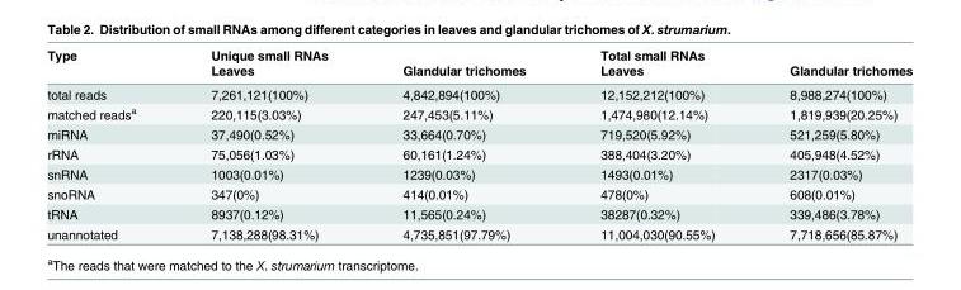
<table><thead><tr><td rowspan="2">Type</td><td rowspan="2">Unique small RNAs Leaves</td><td rowspan="2">Glandular trichomes</td><td rowspan="2">Total small RNAs Leaves</td><td rowspan="2">Glandular trichomes</td></tr><tr></tr></thead><tbody><tr><td>total reads</td><td>7,261,121(100%)</td><td>4,842,894(100%)</td><td>12,152,212(100%)</td><td>8,988,274(100%)</td></tr><tr><td>matched reads<sup>a</sup></td><td>220,115(3.03%)</td><td>247,453(5.11%)</td><td>1,474,980(12.14%)</td><td>1,819,939(20.25%)</td></tr><tr><td>miRNA</td><td>37,490(0.52%)</td><td>33,664(0.70%)</td><td>719,520(5.92%)</td><td>521,259(5.80%)</td></tr><tr><td>rRNA</td><td>75,056(1.03%)</td><td>60,161(1.24%)</td><td>388,404(3.20%)</td><td>405,948(4.52%)</td></tr><tr><td>snRNA</td><td>1003(0.01%)</td><td>1239(0.03%)</td><td>1493(0.01%)</td><td>2317(0.03%)</td></tr><tr><td>snoRNA</td><td>347(0%)</td><td>414(0.01%)</td><td>478(0%)</td><td>608(0.01%)</td></tr><tr><td>tRNA</td><td>8937(0.12%)</td><td>11,565(0.24%)</td><td>38287(0.32%)</td><td>339,486(3.78%)</td></tr><tr><td>unannotated</td><td>7,138,288(98.31%)</td><td>4,735,851(97.79%)</td><td>11,004,030(90.55%)</td><td>7,718,656(85.87%)</td></tr></tbody></table>